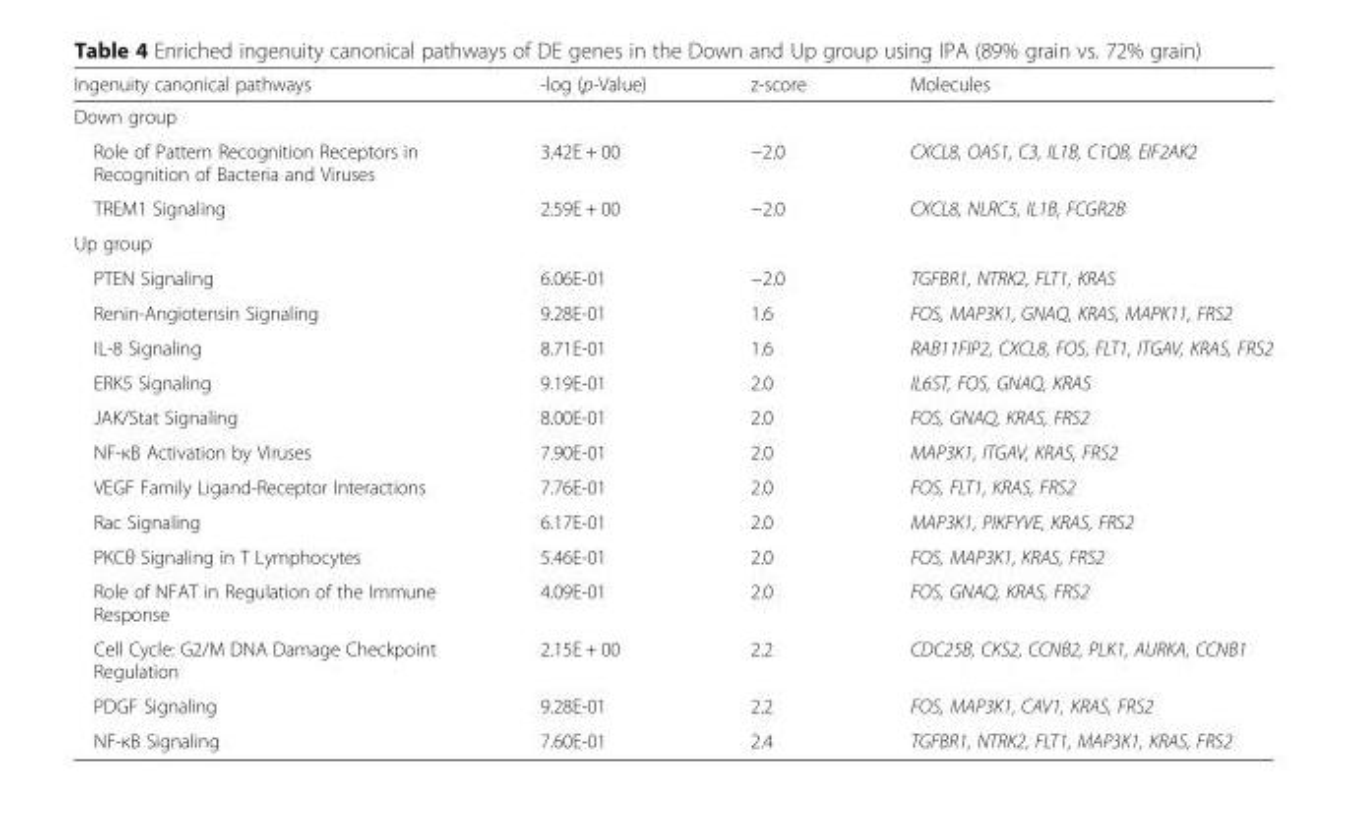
<table><thead><tr><td>Ingenuity canonical pathways</td><td>-log (p-Value)</td><td>z-score</td><td>Molecules</td></tr></thead><tbody><tr><td colspan="4">Down group</td></tr><tr><td>Role of Pattern Recognition Receptors in Recognition of Bacteria and Viruses</td><td>3.42E + 00</td><td>−2.0</td><td>CXCL8, OAS1, C3, IL1B, C1QB, EIF2AK2</td></tr><tr><td>TREM1 Signaling</td><td>2.59E + 00</td><td>−2.0</td><td>CXCL8, NLRC5, IL1B, FCGR2B</td></tr><tr><td colspan="4">Up group</td></tr><tr><td>PTEN Signaling</td><td>6.06E-01</td><td>−2.0</td><td>TGFBR1, NTRK2, FLT1, KRAS</td></tr><tr><td>Renin-Angiotensin Signaling</td><td>9.28E-01</td><td>1.6</td><td>FOS, MAP3K1, GNAQ, KRAS, MAPK11, FRS2</td></tr><tr><td>IL-8 Signaling</td><td>8.71E-01</td><td>1.6</td><td>RAB11FIP2, CXCL8, FOS, FLT1, ITGAV, KRAS, FRS2</td></tr><tr><td>ERK5 Signaling</td><td>9.19E-01</td><td>2.0</td><td>IL6ST, FOS, GNAQ, KRAS</td></tr><tr><td>JAK/Stat Signaling</td><td>8.00E-01</td><td>2.0</td><td>FOS, GNAQ, KRAS, FRS2</td></tr><tr><td>NF-κB Activation by Viruses</td><td>7.90E-01</td><td>2.0</td><td>MAP3K1, ITGAV, KRAS, FRS2</td></tr><tr><td>VEGF Family Ligand-Receptor Interactions</td><td>7.76E-01</td><td>2.0</td><td>FOS, FLT1, KRAS, FRS2</td></tr><tr><td>Rac Signaling</td><td>6.17E-01</td><td>2.0</td><td>MAP3K1, PIKFYVE, KRAS, FRS2</td></tr><tr><td>PKCθ Signaling in T Lymphocytes</td><td>5.46E-01</td><td>2.0</td><td>FOS, MAP3K1, KRAS, FRS2</td></tr><tr><td>Role of NFAT in Regulation of the Immune Response</td><td>4.09E-01</td><td>2.0</td><td>FOS, GNAQ, KRAS, FRS2</td></tr><tr><td>Cell Cycle: G2/M DNA Damage Checkpoint Regulation</td><td>2.15E + 00</td><td>2.2</td><td>CDC25B, CKS2, CCNB2, PLK1, AURKA, CCNB1</td></tr><tr><td>PDGF Signaling</td><td>9.28E-01</td><td>2.2</td><td>FOS, MAP3K1, CAV1, KRAS, FRS2</td></tr><tr><td>NF-κB Signaling</td><td>7.60E-01</td><td>2.4</td><td>TGFBR1, NTRK2, FLT1, MAP3K1, KRAS, FRS2</td></tr></tbody></table>